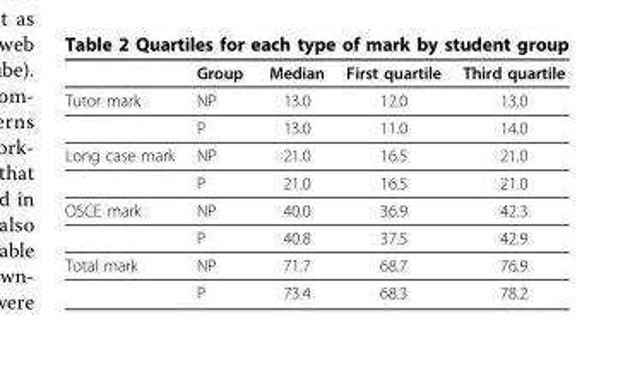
<table><thead><tr><td></td><td>Group</td><td>Median</td><td>First quartile</td><td>Third quartile</td></tr></thead><tbody><tr><td rowspan="2">Tutor mark</td><td>NP</td><td>13.0</td><td>12.0</td><td>13.0</td></tr><tr><td>P</td><td>13.0</td><td>11.0</td><td>14.0</td></tr><tr><td rowspan="2">Long case mark</td><td>NP</td><td>21.0</td><td>16.5</td><td>21.0</td></tr><tr><td>P</td><td>21.0</td><td>16.5</td><td>21.0</td></tr><tr><td rowspan="2">OSCE mark</td><td>NP</td><td>40.0</td><td>36.9</td><td>42.3</td></tr><tr><td>P</td><td>40.8</td><td>37.5</td><td>42.9</td></tr><tr><td rowspan="2">Total mark</td><td>NP</td><td>71.7</td><td>68.7</td><td>76.9</td></tr><tr><td>P</td><td>73.4</td><td>68.3</td><td>78.2</td></tr></tbody></table>